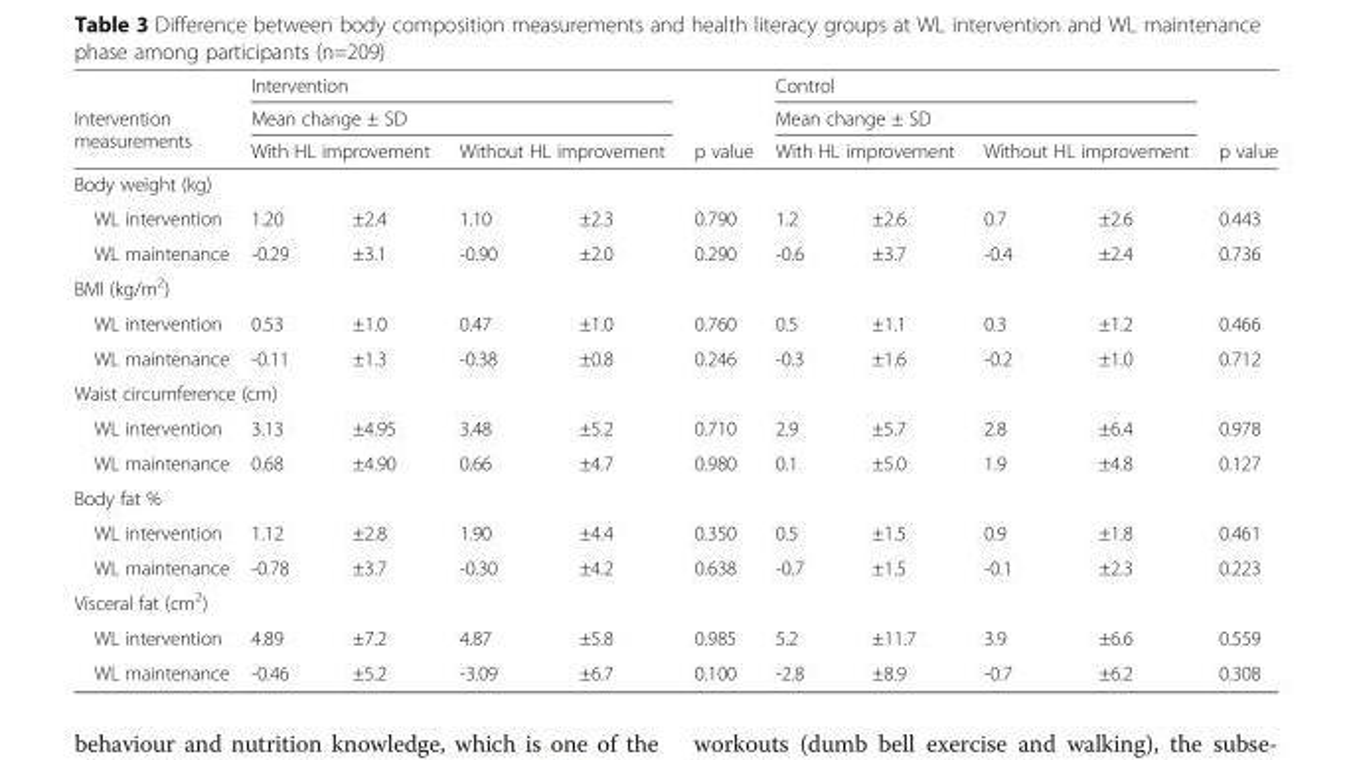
<table><thead><tr><td rowspan="3">Intervention measurements</td><td rowspan="2" colspan="4">Intervention Mean change ± SD</td><td rowspan="3">p value</td><td rowspan="2" colspan="4">Control Mean change ± SD</td><td rowspan="3">p value</td></tr><tr></tr><tr><td colspan="2">With HL improvement</td><td colspan="2">Without HL improvement</td><td colspan="2">With HL improvement</td><td colspan="2">Without HL improvement</td></tr><tr><td colspan="11">Body weight (kg)</td></tr><tr><td>WL intervention</td><td>1.20</td><td>±2.4</td><td>1.10</td><td>±2.3</td><td>0.790</td><td>1.2</td><td>±2.6</td><td>0.7</td><td>±2.6</td><td>0.443</td></tr></thead><tbody><tr><td>WL maintenance</td><td>-0.29</td><td>±3.1</td><td>-0.90</td><td>±2.0</td><td>0.290</td><td>-0.6</td><td>±3.7</td><td>-0.4</td><td>±2.4</td><td>0.736</td></tr><tr><td colspan="11">BMI (kg/m<sup>2</sup>)</td></tr><tr><td>WL intervention</td><td>0.53</td><td>±1.0</td><td>0.47</td><td>±1.0</td><td>0.760</td><td>0.5</td><td>±1.1</td><td>0.3</td><td>±1.2</td><td>0.466</td></tr><tr><td>WL maintenance</td><td>-0.11</td><td>±1.3</td><td>-0.38</td><td>±0.8</td><td>0.246</td><td>-0.3</td><td>±1.6</td><td>-0.2</td><td>±1.0</td><td>0.712</td></tr><tr><td colspan="11">Waist circumference (cm)</td></tr><tr><td>WL intervention</td><td>3.13</td><td>±4.95</td><td>3.48</td><td>±5.2</td><td>0.710</td><td>2.9</td><td>±5.7</td><td>2.8</td><td>±6.4</td><td>0.978</td></tr><tr><td>WL maintenance</td><td>0.68</td><td>±4.90</td><td>0.66</td><td>±4.7</td><td>0.980</td><td>0.1</td><td>±5.0</td><td>1.9</td><td>±4.8</td><td>0.127</td></tr><tr><td colspan="11">Body fat %</td></tr><tr><td>WL intervention</td><td>1.12</td><td>±2.8</td><td>1.90</td><td>±4.4</td><td>0.350</td><td>0.5</td><td>±1.5</td><td>0.9</td><td>±1.8</td><td>0.461</td></tr><tr><td>WL maintenance</td><td>-0.78</td><td>±3.7</td><td>-0.30</td><td>±4.2</td><td>0.638</td><td>-0.7</td><td>±1.5</td><td>-0.1</td><td>±2.3</td><td>0.223</td></tr><tr><td colspan="11">Visceral fat (cm<sup>2</sup>)</td></tr><tr><td>WL intervention</td><td>4.89</td><td>±7.2</td><td>4.87</td><td>±5.8</td><td>0.985</td><td>5.2</td><td>±11.7</td><td>3.9</td><td>±6.6</td><td>0.559</td></tr><tr><td>WL maintenance</td><td>-0.46</td><td>±5.2</td><td>-3.09</td><td>±6.7</td><td>0.100</td><td>-2.8</td><td>±8.9</td><td>-0.7</td><td>±6.2</td><td>0.308</td></tr></tbody></table>